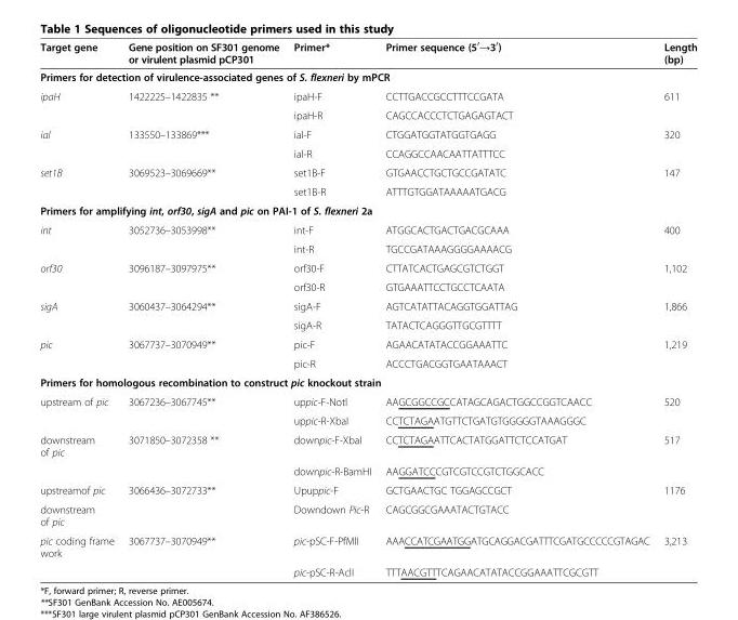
<table><thead><tr><td>Target gene</td><td>Gene position on SF301 genome or virulent plasmid pCP301</td><td>Primer*</td><td>Primer sequence (5<sup>′</sup>→3<sup>′</sup>)</td><td>Length (bp)</td></tr></thead><tbody><tr><td colspan="5">Primers for detection of virulence-associated genes of S. flexneri by mPCR</td></tr><tr><td rowspan="2">ipaH</td><td>1422225–1422835 **</td><td>ipaH-F</td><td>CCTTGACCGCCTTTCCGATA</td><td>611</td></tr><tr><td></td><td>ipaH-R</td><td>CAGCCACCCTCTGAGAGTACT</td><td></td></tr><tr><td rowspan="2">ial</td><td>133550–133869***</td><td>ial-F</td><td>CTGGATGGTATGGTGAGG</td><td>320</td></tr><tr><td></td><td>ial-R</td><td>CCAGGCCAACAATTATTTCC</td><td></td></tr><tr><td rowspan="2">set1B</td><td>3069523–3069669**</td><td>set1B-F</td><td>GTGAACCTGCTGCCGATATC</td><td>147</td></tr><tr><td></td><td>set1B-R</td><td>ATTTGTGGATAAAAATGACG</td><td></td></tr><tr><td colspan="5">Primers for amplifying int, orf30, sigA and pic on PAI-1 of S. flexneri 2a</td></tr><tr><td rowspan="2">int</td><td>3052736–3053998**</td><td>int-F</td><td>ATGGCACTGACTGACGCAAA</td><td>400</td></tr><tr><td></td><td>int-R</td><td>TGCCGATAAAGGGGAAAACG</td><td></td></tr><tr><td rowspan="2">orf30</td><td>3096187–3097975**</td><td>orf30-F</td><td>CTTATCACTGAGCGTCTGGT</td><td>1,102</td></tr><tr><td></td><td>orf30-R</td><td>GTGAAATTCCTGCCTCAATA</td><td></td></tr><tr><td rowspan="2">sigA</td><td>3060437–3064294**</td><td>sigA-F</td><td>AGTCATATTACAGGTGGATTAG</td><td>1,866</td></tr><tr><td></td><td>sigA-R</td><td>TATACTCAGGGTTGCGTTTT</td><td></td></tr><tr><td rowspan="2">pic</td><td>3067737–3070949**</td><td>pic-F</td><td>AGAACATATACCGGAAATTC</td><td>1,219</td></tr><tr><td></td><td>pic-R</td><td>ACCCTGACGGTGAATAAACT</td><td></td></tr><tr><td colspan="5">Primers for homologous recombination to construct pic knockout strain</td></tr><tr><td rowspan="2">upstream of pic</td><td>3067236–3067745**</td><td>uppic-F-NotI</td><td>AAGCGGCCGCCATAGCAGACTGGCCGGTCAACC</td><td>520</td></tr><tr><td></td><td>uppic-R-XbaI</td><td>CCTCTAGAATGTTCTGATGTGGGGGTAAAGGGC</td><td></td></tr><tr><td rowspan="2">downstream of pic</td><td>3071850–3072358 **</td><td>downpic-F-XbaI</td><td>CCTCTAGAATTCACTATGGATTCTCCATGAT</td><td>517</td></tr><tr><td></td><td>downpic-R-BamHI</td><td>AAGGATCCCGTCGTCCGTCTGGCACC</td><td></td></tr><tr><td>upstreamof pic</td><td>3066436–3072733**</td><td>Upuppic-F</td><td>GCTGAACTGC TGGAGCCGCT</td><td>1176</td></tr><tr><td>downstream of pic</td><td></td><td>Downdown Pic-R</td><td>CAGCGGCGAAATACTGTACC</td><td></td></tr><tr><td rowspan="2">pic coding frame work</td><td>3067737–3070949**</td><td>pic-pSC-F-PfMlI</td><td>AAACCATCGAATGGATGCAGGACGATTTCGATGCCCCCGTAGAC</td><td>3,213</td></tr><tr><td></td><td>pic-pSC-R-AclI</td><td>TTTAACGTTTCAGAACATATACCGGAAATTCGCGTT</td><td></td></tr></tbody></table>